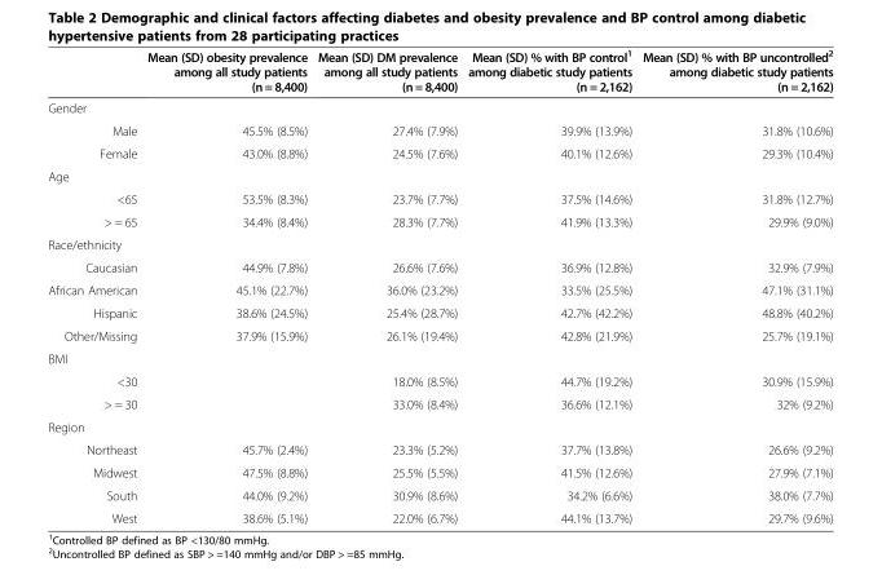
<table><thead><tr><td></td><td>Mean (SD) obesity prevalence among all study patients (n = 8,400)</td><td>Mean (SD) DM prevalence among all study patients (n = 8,400)</td><td>Mean (SD) % with BP control<sup>1</sup> among diabetic study patients (n = 2,162)</td><td>Mean (SD) % with BP uncontrolled<sup>2</sup> among diabetic study patients (n = 2,162)</td></tr></thead><tbody><tr><td colspan="5">Gender</td></tr><tr><td>Male</td><td>45.5% (8.5%)</td><td>27.4% (7.9%)</td><td>39.9% (13.9%)</td><td>31.8% (10.6%)</td></tr><tr><td>Female</td><td>43.0% (8.8%)</td><td>24.5% (7.6%)</td><td>40.1% (12.6%)</td><td>29.3% (10.4%)</td></tr><tr><td colspan="5">Age</td></tr><tr><td>&lt;65</td><td>53.5% (8.3%)</td><td>23.7% (7.7%)</td><td>37.5% (14.6%)</td><td>31.8% (12.7%)</td></tr><tr><td>&gt; = 65</td><td>34.4% (8.4%)</td><td>28.3% (7.7%)</td><td>41.9% (13.3%)</td><td>29.9% (9.0%)</td></tr><tr><td colspan="5">Race/ethnicity</td></tr><tr><td>Caucasian</td><td>44.9% (7.8%)</td><td>26.6% (7.6%)</td><td>36.9% (12.8%)</td><td>32.9% (7.9%)</td></tr><tr><td>African American</td><td>45.1% (22.7%)</td><td>36.0% (23.2%)</td><td>33.5% (25.5%)</td><td>47.1% (31.1%)</td></tr><tr><td>Hispanic</td><td>38.6% (24.5%)</td><td>25.4% (28.7%)</td><td>42.7% (42.2%)</td><td>48.8% (40.2%)</td></tr><tr><td>Other/Missing</td><td>37.9% (15.9%)</td><td>26.1% (19.4%)</td><td>42.8% (21.9%)</td><td>25.7% (19.1%)</td></tr><tr><td colspan="5">BMI</td></tr><tr><td>&lt;30</td><td></td><td>18.0% (8.5%)</td><td>44.7% (19.2%)</td><td>30.9% (15.9%)</td></tr><tr><td>&gt; = 30</td><td></td><td>33.0% (8.4%)</td><td>36.6% (12.1%)</td><td>32% (9.2%)</td></tr><tr><td colspan="5">Region</td></tr><tr><td>Northeast</td><td>45.7% (2.4%)</td><td>23.3% (5.2%)</td><td>37.7% (13.8%)</td><td>26.6% (9.2%)</td></tr><tr><td>Midwest</td><td>47.5% (8.8%)</td><td>25.5% (5.5%)</td><td>41.5% (12.6%)</td><td>27.9% (7.1%)</td></tr><tr><td>South</td><td>44.0% (9.2%)</td><td>30.9% (8.6%)</td><td>34.2% (6.6%)</td><td>38.0% (7.7%)</td></tr><tr><td>West</td><td>38.6% (5.1%)</td><td>22.0% (6.7%)</td><td>44.1% (13.7%)</td><td>29.7% (9.6%)</td></tr></tbody></table>